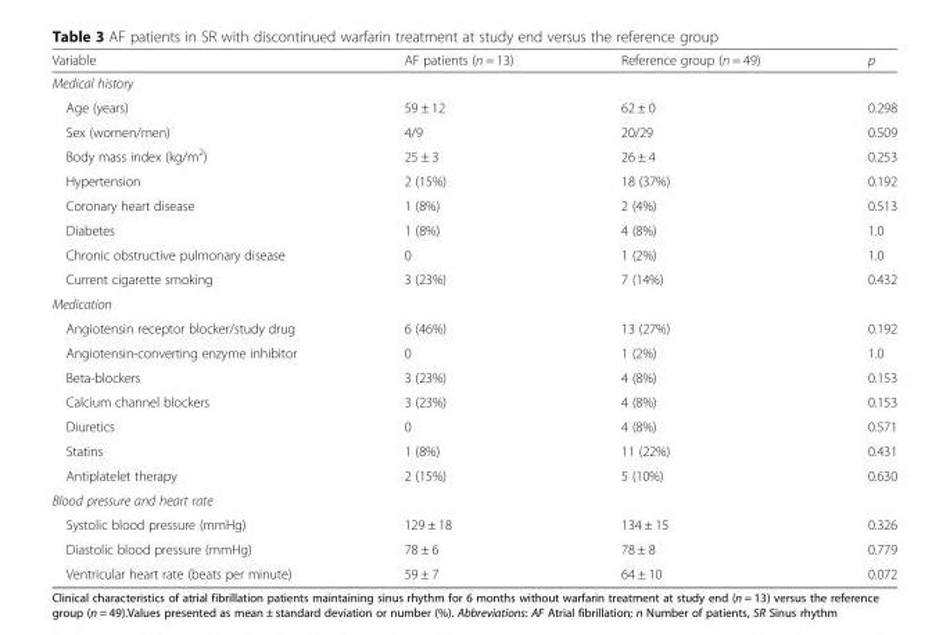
<table><thead><tr><td>Variable</td><td>AF patients (n = 13)</td><td>Reference group (n = 49)</td><td>p</td></tr></thead><tbody><tr><td colspan="4">Medical history</td></tr><tr><td>Age (years)</td><td>59 ± 12</td><td>62 ± 0</td><td>0.298</td></tr><tr><td>Sex (women/men)</td><td>4/9</td><td>20/29</td><td>0.509</td></tr><tr><td>Body mass index (kg/m<sup>2</sup>)</td><td>25 ± 3</td><td>26 ± 4</td><td>0.253</td></tr><tr><td>Hypertension</td><td>2 (15%)</td><td>18 (37%)</td><td>0.192</td></tr><tr><td>Coronary heart disease</td><td>1 (8%)</td><td>2 (4%)</td><td>0.513</td></tr><tr><td>Diabetes</td><td>1 (8%)</td><td>4 (8%)</td><td>1.0</td></tr><tr><td>Chronic obstructive pulmonary disease</td><td>0</td><td>1 (2%)</td><td>1.0</td></tr><tr><td>Current cigarette smoking</td><td>3 (23%)</td><td>7 (14%)</td><td>0.432</td></tr><tr><td colspan="4">Medication</td></tr><tr><td>Angiotensin receptor blocker/study drug</td><td>6 (46%)</td><td>13 (27%)</td><td>0.192</td></tr><tr><td>Angiotensin-converting enzyme inhibitor</td><td>0</td><td>1 (2%)</td><td>1.0</td></tr><tr><td>Beta-blockers</td><td>3 (23%)</td><td>4 (8%)</td><td>0.153</td></tr><tr><td>Calcium channel blockers</td><td>3 (23%)</td><td>4 (8%)</td><td>0.153</td></tr><tr><td>Diuretics</td><td>0</td><td>4 (8%)</td><td>0.571</td></tr><tr><td>Statins</td><td>1 (8%)</td><td>11 (22%)</td><td>0.431</td></tr><tr><td>Antiplatelet therapy</td><td>2 (15%)</td><td>5 (10%)</td><td>0.630</td></tr><tr><td colspan="4">Blood pressure and heart rate</td></tr><tr><td>Systolic blood pressure (mmHg)</td><td>129 ± 18</td><td>134 ± 15</td><td>0.326</td></tr><tr><td>Diastolic blood pressure (mmHg)</td><td>78 ± 6</td><td>78 ± 8</td><td>0.779</td></tr><tr><td>Ventricular heart rate (beats per minute)</td><td>59 ± 7</td><td>64 ± 10</td><td>0.072</td></tr></tbody></table>